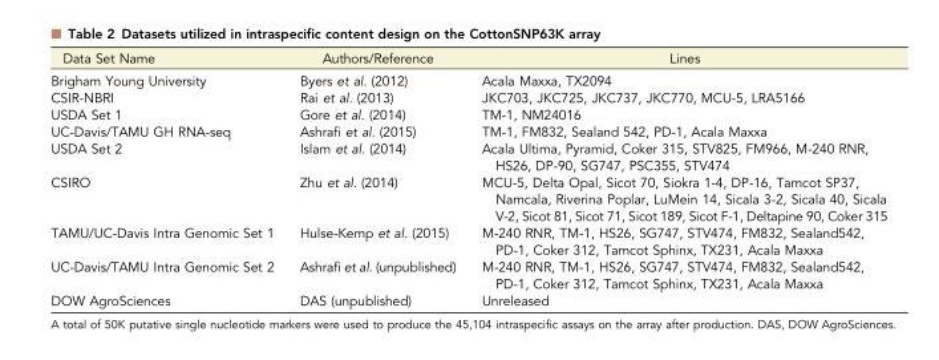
<table><thead><tr><td>Data Set Name</td><td>Authors/Reference</td><td>Lines</td></tr></thead><tbody><tr><td>Brigham Young University</td><td>Byers et al. (2012)</td><td>Acala Maxxa, TX2094</td></tr><tr><td>CSIR-NBRI</td><td>Rai et al. (2013)</td><td>JKC703, JKC725, JKC737, JKC770, MCU-5, LRA5166</td></tr><tr><td>USDA Set 1</td><td>Gore et al. (2014)</td><td>TM-1, NM24016</td></tr><tr><td>UC-Davis/TAMU GH RNA-seq</td><td>Ashrafi et al. (2015)</td><td>TM-1, FM832, Sealand 542, PD-1, Acala Maxxa</td></tr><tr><td>USDA Set 2</td><td>Islam et al. (2014)</td><td>Acala Ultima, Pyramid, Coker 315, STV825, FM966, M-240 RNR, HS26, DP-90, SG747, PSC355, STV474</td></tr><tr><td>CSIRO</td><td>Zhu et al. (2014)</td><td>MCU-5, Delta Opal, Sicot 70, Siokra 1-4, DP-16, Tamcot SP37, Namcala, Riverina Poplar, LuMein 14, Sicala 3-2, Sicala 40, Sicala V-2, Sicot 81, Sicot 71, Sicot 189, Sicot F-1, Deltapine 90, Coker 315</td></tr><tr><td>TAMU/UC-Davis Intra Genomic Set 1</td><td>Hulse-Kemp et al. (2015)</td><td>M-240 RNR, TM-1, HS26, SG747, STV474, FM832, Sealand542, PD-1, Coker 312, Tamcot Sphinx, TX231, Acala Maxxa</td></tr><tr><td>UC-Davis/TAMU Intra Genomic Set 2</td><td>Ashrafi et al. (unpublished)</td><td>M-240 RNR, TM-1, HS26, SG747, STV474, FM832, Sealand542, PD-1, Coker 312, Tamcot Sphinx, TX231, Acala Maxxa</td></tr><tr><td>DOW AgroSciences</td><td>DAS (unpublished)</td><td>Unreleased</td></tr></tbody></table>